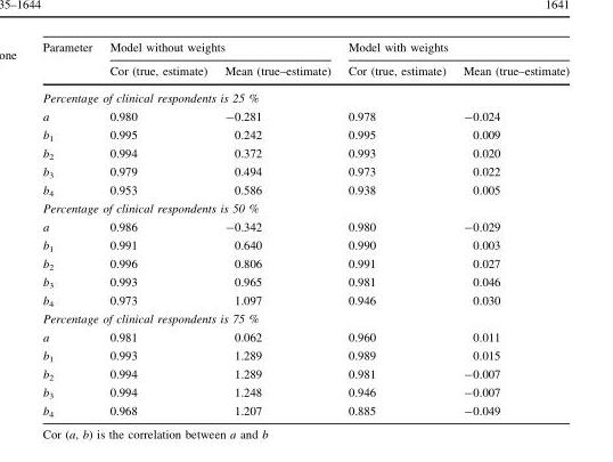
<table><thead><tr><td rowspan="2">Parameter</td><td colspan="2">Model without weights</td><td colspan="2">Model with weights</td></tr><tr><td>Cor (true, estimate)</td><td>Mean (true–estimate)</td><td>Cor (true, estimate)</td><td>Mean (true–estimate)</td></tr></thead><tbody><tr><td colspan="5">Percentage of clinical respondents is 25 %</td></tr><tr><td>a</td><td>0.980</td><td>-0.281</td><td>0.978</td><td>-0.024</td></tr><tr><td>b<sub>1</sub></td><td>0.995</td><td>0.242</td><td>0.995</td><td>0.009</td></tr><tr><td>b<sub>2</sub></td><td>0.994</td><td>0.372</td><td>0.993</td><td>0.020</td></tr><tr><td>b<sub>3</sub></td><td>0.979</td><td>0.494</td><td>0.973</td><td>0.022</td></tr><tr><td>b<sub>4</sub></td><td>0.953</td><td>0.586</td><td>0.938</td><td>0.005</td></tr><tr><td colspan="5">Percentage of clinical respondents is 50 %</td></tr><tr><td>a</td><td>0.986</td><td>-0.342</td><td>0.980</td><td>-0.029</td></tr><tr><td>b<sub>1</sub></td><td>0.991</td><td>0.640</td><td>0.990</td><td>0.003</td></tr><tr><td>b<sub>2</sub></td><td>0.996</td><td>0.806</td><td>0.991</td><td>0.027</td></tr><tr><td>b<sub>3</sub></td><td>0.993</td><td>0.965</td><td>0.981</td><td>0.046</td></tr><tr><td>b<sub>4</sub></td><td>0.973</td><td>1.097</td><td>0.946</td><td>0.030</td></tr><tr><td colspan="5">Percentage of clinical respondents is 75 %</td></tr><tr><td>a</td><td>0.981</td><td>0.062</td><td>0.960</td><td>0.011</td></tr><tr><td>b<sub>1</sub></td><td>0.993</td><td>1.289</td><td>0.989</td><td>0.015</td></tr><tr><td>b<sub>2</sub></td><td>0.994</td><td>1.289</td><td>0.981</td><td>-0.007</td></tr><tr><td>b<sub>3</sub></td><td>0.994</td><td>1.248</td><td>0.946</td><td>-0.007</td></tr><tr><td>b<sub>4</sub></td><td>0.968</td><td>1.207</td><td>0.885</td><td>-0.049</td></tr></tbody></table>